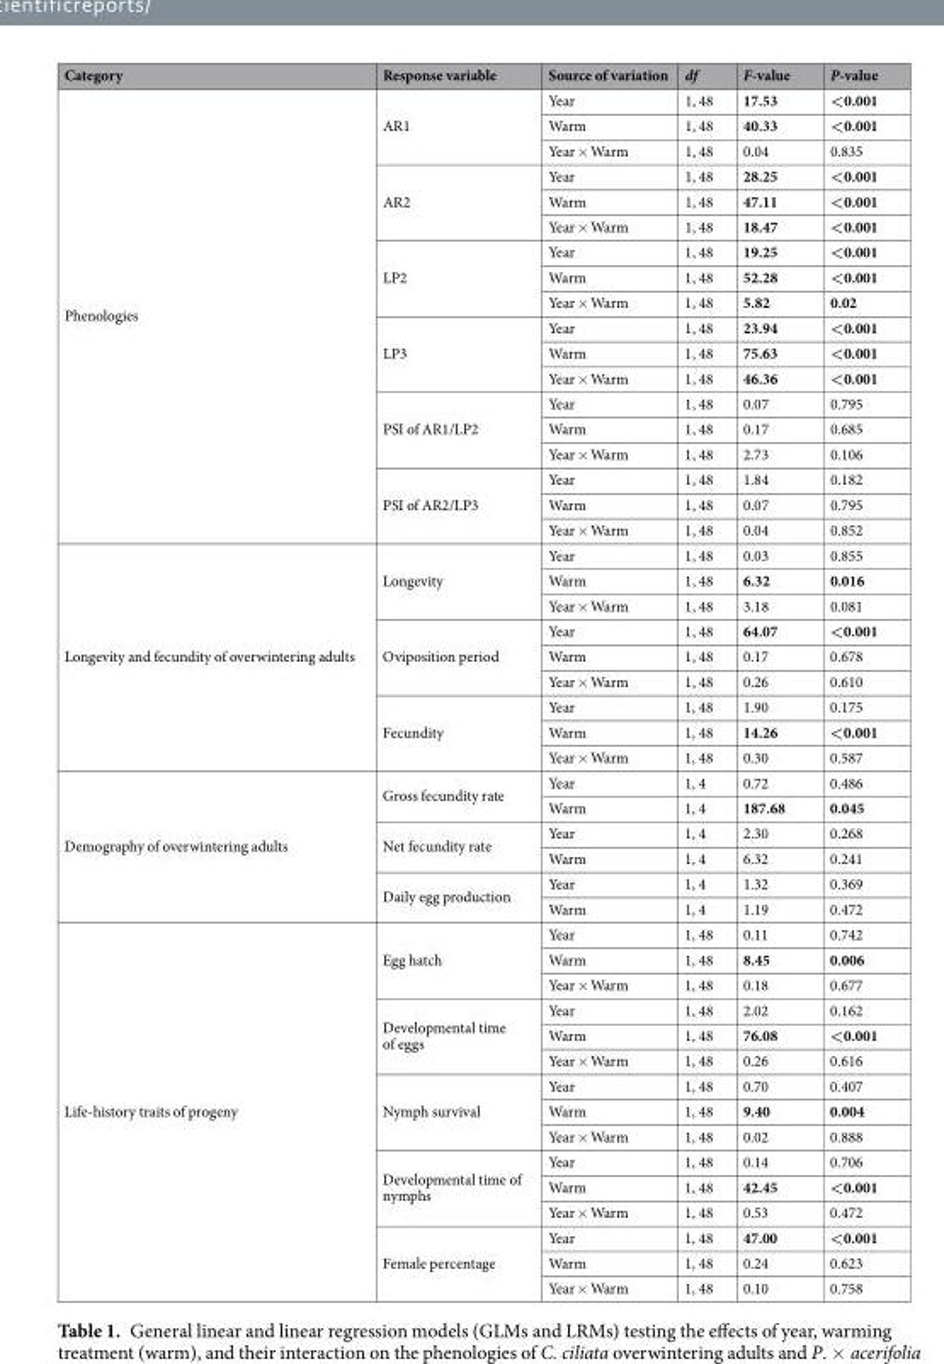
<table><thead><tr><td>Category</td><td>Response variable</td><td>Source of variation</td><td>df</td><td>F-value</td><td>P-value</td></tr></thead><tbody><tr><td rowspan="18">Phenologies</td><td rowspan="3">AR1</td><td>Year</td><td>1, 48</td><td>17.53</td><td>&lt;0.001</td></tr><tr><td>Warm</td><td>1, 48</td><td>40.33</td><td>&lt;0.001</td></tr><tr><td>Year × Warm</td><td>1, 48</td><td>0.04</td><td>0.835</td></tr><tr><td rowspan="3">AR2</td><td>Year</td><td>1, 48</td><td>28.25</td><td>&lt;0.001</td></tr><tr><td>Warm</td><td>1, 48</td><td>47.11</td><td>&lt;0.001</td></tr><tr><td>Year × Warm</td><td>1, 48</td><td>18.47</td><td>&lt;0.001</td></tr><tr><td rowspan="3">LP2</td><td>Year</td><td>1, 48</td><td>19.25</td><td>&lt;0.001</td></tr><tr><td>Warm</td><td>1, 48</td><td>52.28</td><td>&lt;0.001</td></tr><tr><td>Year × Warm</td><td>1, 48</td><td>5.82</td><td>0.02</td></tr><tr><td rowspan="3">LP3</td><td>Year</td><td>1, 48</td><td>23.94</td><td>&lt;0.001</td></tr><tr><td>Warm</td><td>1, 48</td><td>75.63</td><td>&lt;0.001</td></tr><tr><td>Year × Warm</td><td>1, 48</td><td>46.36</td><td>&lt;0.001</td></tr><tr><td rowspan="3">PSI of AR1/LP2</td><td>Year</td><td>1, 48</td><td>0.07</td><td>0.795</td></tr><tr><td>Warm</td><td>1, 48</td><td>0.17</td><td>0.685</td></tr><tr><td>Year × Warm</td><td>1, 48</td><td>2.73</td><td>0.106</td></tr><tr><td rowspan="3">PSI of AR2/LP3</td><td>Year</td><td>1, 48</td><td>1.84</td><td>0.182</td></tr><tr><td>Warm</td><td>1, 48</td><td>0.07</td><td>0.795</td></tr><tr><td>Year × Warm</td><td>1, 48</td><td>0.04</td><td>0.852</td></tr><tr><td rowspan="9">Longevity and fecundity of overwintering adults</td><td rowspan="3">Longevity</td><td>Year</td><td>1, 48</td><td>0.03</td><td>0.855</td></tr><tr><td>Warm</td><td>1, 48</td><td>6.32</td><td>0.016</td></tr><tr><td>Year × Warm</td><td>1, 48</td><td>3.18</td><td>0.081</td></tr><tr><td rowspan="3">Oviposition period</td><td>Year</td><td>1, 48</td><td>64.07</td><td>&lt;0.001</td></tr><tr><td>Warm</td><td>1, 48</td><td>0.17</td><td>0.678</td></tr><tr><td>Year × Warm</td><td>1, 48</td><td>0.26</td><td>0.610</td></tr><tr><td rowspan="3">Fecundity</td><td>Year</td><td>1, 48</td><td>1.90</td><td>0.175</td></tr><tr><td>Warm</td><td>1, 48</td><td>14.26</td><td>&lt;0.001</td></tr><tr><td>Year × Warm</td><td>1, 48</td><td>0.30</td><td>0.587</td></tr><tr><td rowspan="6">Demography of overwintering adults</td><td rowspan="2">Gross fecundity rate</td><td>Year</td><td>1, 4</td><td>0.72</td><td>0.486</td></tr><tr><td>Warm</td><td>1, 4</td><td>187.68</td><td>0.045</td></tr><tr><td rowspan="2">Net fecundity rate</td><td>Year</td><td>1, 4</td><td>2.30</td><td>0.268</td></tr><tr><td>Warm</td><td>1, 4</td><td>6.32</td><td>0.241</td></tr><tr><td rowspan="2">Daily egg production</td><td>Year</td><td>1, 4</td><td>1.32</td><td>0.369</td></tr><tr><td>Warm</td><td>1, 4</td><td>1.19</td><td>0.472</td></tr><tr><td rowspan="15">Life-history traits of progeny</td><td rowspan="3">Egg hatch</td><td>Year</td><td>1, 48</td><td>0.11</td><td>0.742</td></tr><tr><td>Warm</td><td>1, 48</td><td>8.45</td><td>0.006</td></tr><tr><td>Year × Warm</td><td>1, 48</td><td>0.18</td><td>0.677</td></tr><tr><td rowspan="3">Developmental time of eggs</td><td>Year</td><td>1, 48</td><td>2.02</td><td>0.162</td></tr><tr><td>Warm</td><td>1, 48</td><td>76.08</td><td>&lt;0.001</td></tr><tr><td>Year × Warm</td><td>1, 48</td><td>0.26</td><td>0.616</td></tr><tr><td rowspan="3">Nymph survival</td><td>Year</td><td>1, 48</td><td>0.70</td><td>0.407</td></tr><tr><td>Warm</td><td>1, 48</td><td>9.40</td><td>0.004</td></tr><tr><td>Year × Warm</td><td>1, 48</td><td>0.02</td><td>0.888</td></tr><tr><td rowspan="3">Developmental time of nymphs</td><td>Year</td><td>1, 48</td><td>0.14</td><td>0.706</td></tr><tr><td>Warm</td><td>1, 48</td><td>42.45</td><td>&lt;0.001</td></tr><tr><td>Year × Warm</td><td>1, 48</td><td>0.53</td><td>0.472</td></tr><tr><td rowspan="3">Female percentage</td><td>Year</td><td>1, 48</td><td>47.00</td><td>&lt;0.001</td></tr><tr><td>Warm</td><td>1, 48</td><td>0.24</td><td>0.623</td></tr><tr><td>Year × Warm</td><td>1, 48</td><td>0.10</td><td>0.758</td></tr></tbody></table>